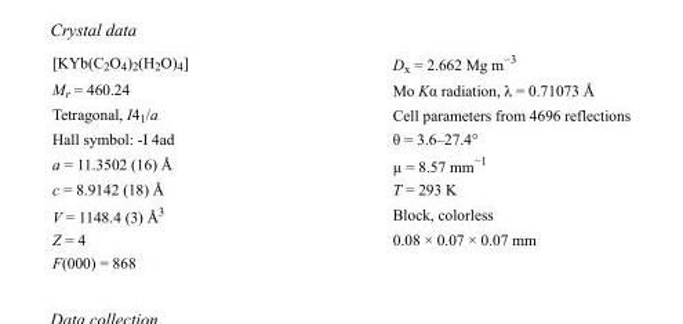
<table><tbody><tr><td>[KYb(C<sub>2</sub>O<sub>4</sub>)<sub>2</sub>(H<sub>2</sub>O)<sub>4</sub>]</td><td>D<sub>x</sub> = 2.662 Mg m<sup>−3</sup></td></tr><tr><td>M<sub>r</sub> = 460.24</td><td>Mo Kα radiation, λ = 0.71073 Å</td></tr><tr><td>Tetragonal, I4<sub>1</sub>/a</td><td>Cell parameters from 4696 reflections</td></tr><tr><td>Hall symbol: -I 4ad</td><td>θ = 3.6–27.4°</td></tr><tr><td>a = 11.3502 (16) Å</td><td>µ = 8.57 mm<sup>−1</sup></td></tr><tr><td>c = 8.9142 (18) Å</td><td>T = 293 K</td></tr><tr><td>V = 1148.4 (3) Å<sup>3</sup></td><td>Block, colorless</td></tr><tr><td>Z = 4</td><td>0.08 × 0.07 × 0.07 mm</td></tr><tr><td>F(000) = 868</td><td></td></tr></tbody></table>